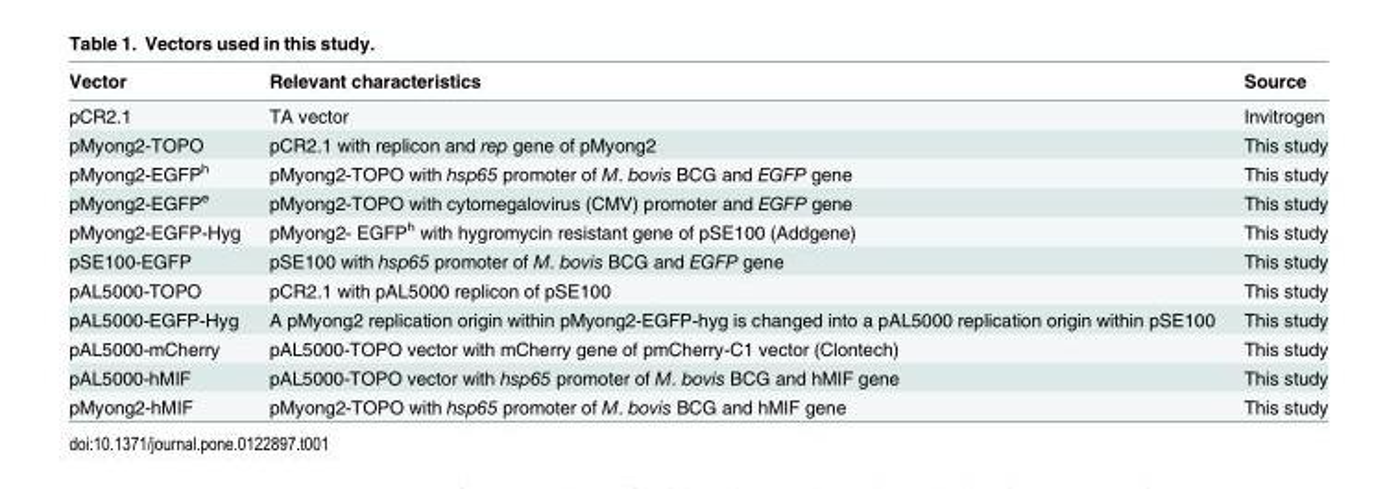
<table><thead><tr><td>Vector</td><td>Relevant characteristics</td><td>Source</td></tr></thead><tbody><tr><td>pCR2.1</td><td>TA vector</td><td>Invitrogen</td></tr><tr><td>pMyong2-TOPO</td><td>pCR2.1 with replicon and rep gene of pMyong2</td><td>This study</td></tr><tr><td>pMyong2-EGFP<sup>h</sup></td><td>pMyong2-TOPO with hsp65 promoter of M. bovis BCG and EGFP gene</td><td>This study</td></tr><tr><td>pMyong2-EGFP<sup>e</sup></td><td>pMyong2-TOPO with cytomegalovirus (CMV) promoter and EGFP gene</td><td>This study</td></tr><tr><td>pMyong2-EGFP-Hyg</td><td>pMyong2- EGFP<sup>h</sup> with hygromycin resistant gene of pSE100 (Addgene)</td><td>This study</td></tr><tr><td>pSE100-EGFP</td><td>pSE100 with hsp65 promoter of M. bovis BCG and EGFP gene</td><td>This study</td></tr><tr><td>pAL5000-TOPO</td><td>pCR2.1 with pAL5000 replicon of pSE100</td><td>This study</td></tr><tr><td>pAL5000-EGFP-Hyg</td><td>A pMyong2 replication origin within pMyong2-EGFP-hyg is changed into a pAL5000 replication origin within pSE100</td><td>This study</td></tr><tr><td>pAL5000-mCherry</td><td>pAL5000-TOPO vector with mCherry gene of pmCherry-C1 vector (Clontech)</td><td>This study</td></tr><tr><td>pAL5000-hMIF</td><td>pAL5000-TOPO vector with hsp65 promoter of M. bovis BCG and hMIF gene</td><td>This study</td></tr><tr><td>pMyong2-hMIF</td><td>pMyong2-TOPO with hsp65 promoter of M. bovis BCG and hMIF gene</td><td>This study</td></tr></tbody></table>